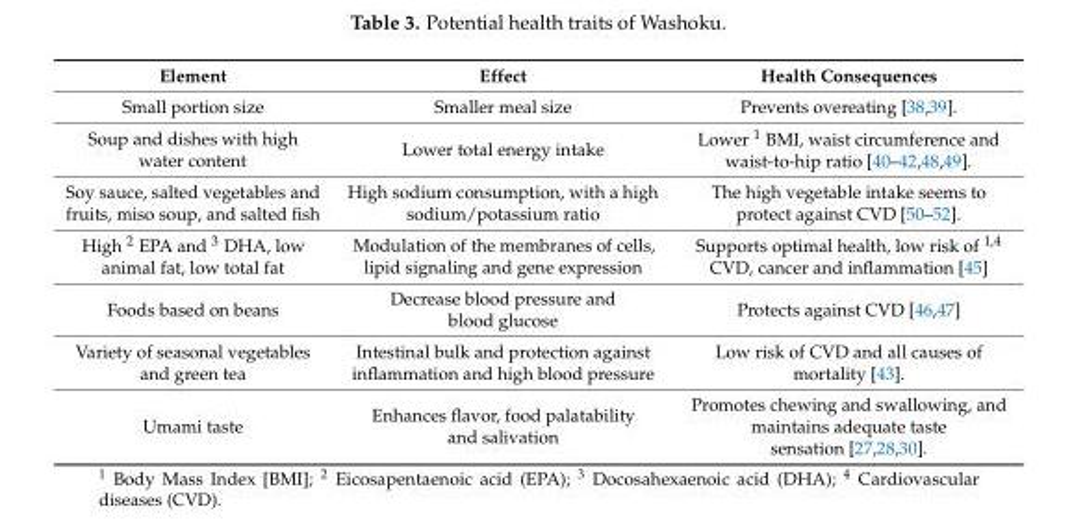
<table><thead><tr><td>Element</td><td>Effect</td><td>Health Consequences</td></tr></thead><tbody><tr><td>Small portion size</td><td>Smaller meal size</td><td>Prevents overeating [38,39].</td></tr><tr><td>Soup and dishes with high water content</td><td>Lower total energy intake</td><td>Lower 1 BMI, waist circumference and waist-to-hip ratio [40–42,48,49].</td></tr><tr><td>Soy sauce, salted vegetables and fruits, miso soup, and salted fish</td><td>High sodium consumption, with a high sodium/potassium ratio</td><td>The high vegetable intake seems to protect against CVD [50–52].</td></tr><tr><td>High <sup>2</sup> EPA and <sup>3</sup> DHA, low animal fat, low total fat</td><td>Modulation of the membranes of cells, lipid signaling and gene expression</td><td>Supports optimal health, low risk of <sup>1,4</sup> CVD, cancer and inflammation [45]</td></tr><tr><td>Foods based on beans</td><td>Decrease blood pressure and blood glucose</td><td>Protects against CVD [46,47]</td></tr><tr><td>Variety of seasonal vegetables and green tea</td><td>Intestinal bulk and protection against inflammation and high blood pressure</td><td>Low risk of CVD and all causes of mortality [43].</td></tr><tr><td>Umami taste</td><td>Enhances flavor, food palatability and salivation</td><td>Promotes chewing and swallowing, and maintains adequate taste sensation [27,28,30].</td></tr></tbody></table>